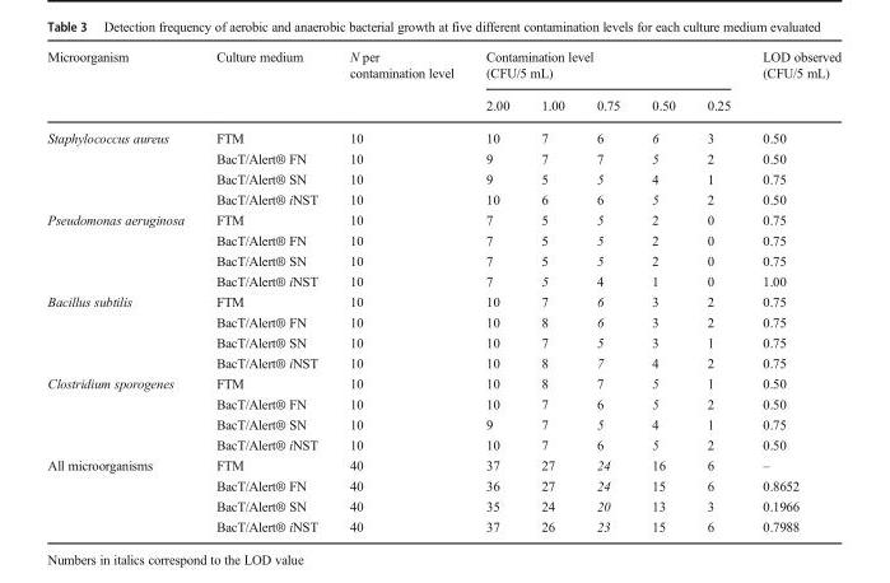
<table><thead><tr><td rowspan="2">Microorganism</td><td rowspan="2">Culture medium</td><td rowspan="2">N per contamination level</td><td colspan="5">Contamination level (CFU/5 mL)</td><td rowspan="2">LOD observed (CFU/5 mL)</td></tr><tr><td>2.00</td><td>1.00</td><td>0.75</td><td>0.50</td><td>0.25</td></tr></thead><tbody><tr><td rowspan="4">Staphylococcus aureus</td><td>FTM</td><td>10</td><td>10</td><td>7</td><td>6</td><td>6</td><td>3</td><td>0.50</td></tr><tr><td>BacT/Alert® FN</td><td>10</td><td>9</td><td>7</td><td>7</td><td>5</td><td>2</td><td>0.50</td></tr><tr><td>BacT/Alert® SN</td><td>10</td><td>9</td><td>5</td><td>5</td><td>4</td><td>1</td><td>0.75</td></tr><tr><td>BacT/Alert® iNST</td><td>10</td><td>10</td><td>6</td><td>6</td><td>5</td><td>2</td><td>0.50</td></tr><tr><td rowspan="4">Pseudomonas aeruginosa</td><td>FTM</td><td>10</td><td>7</td><td>5</td><td>5</td><td>2</td><td>0</td><td>0.75</td></tr><tr><td>BacT/Alert® FN</td><td>10</td><td>7</td><td>5</td><td>5</td><td>2</td><td>0</td><td>0.75</td></tr><tr><td>BacT/Alert® SN</td><td>10</td><td>7</td><td>5</td><td>5</td><td>2</td><td>0</td><td>0.75</td></tr><tr><td>BacT/Alert® iNST</td><td>10</td><td>7</td><td>5</td><td>4</td><td>1</td><td>0</td><td>1.00</td></tr><tr><td rowspan="4">Bacillus subtilis</td><td>FTM</td><td>10</td><td>10</td><td>7</td><td>6</td><td>3</td><td>2</td><td>0.75</td></tr><tr><td>BacT/Alert® FN</td><td>10</td><td>10</td><td>8</td><td>6</td><td>3</td><td>2</td><td>0.75</td></tr><tr><td>BacT/Alert® SN</td><td>10</td><td>10</td><td>7</td><td>5</td><td>3</td><td>1</td><td>0.75</td></tr><tr><td>BacT/Alert® iNST</td><td>10</td><td>10</td><td>8</td><td>7</td><td>4</td><td>2</td><td>0.75</td></tr><tr><td rowspan="4">Clostridium sporogenes</td><td>FTM</td><td>10</td><td>10</td><td>8</td><td>7</td><td>5</td><td>1</td><td>0.50</td></tr><tr><td>BacT/Alert® FN</td><td>10</td><td>10</td><td>7</td><td>6</td><td>5</td><td>2</td><td>0.50</td></tr><tr><td>BacT/Alert® SN</td><td>10</td><td>9</td><td>7</td><td>5</td><td>4</td><td>1</td><td>0.75</td></tr><tr><td>BacT/Alert® iNST</td><td>10</td><td>10</td><td>7</td><td>6</td><td>5</td><td>2</td><td>0.50</td></tr><tr><td rowspan="4">All microorganisms</td><td>FTM</td><td>40</td><td>37</td><td>27</td><td>24</td><td>16</td><td>6</td><td>–</td></tr><tr><td>BacT/Alert® FN</td><td>40</td><td>36</td><td>27</td><td>24</td><td>15</td><td>6</td><td>0.8652</td></tr><tr><td>BacT/Alert® SN</td><td>40</td><td>35</td><td>24</td><td>20</td><td>13</td><td>3</td><td>0.1966</td></tr><tr><td>BacT/Alert® iNST</td><td>40</td><td>37</td><td>26</td><td>23</td><td>15</td><td>6</td><td>0.7988</td></tr></tbody></table>